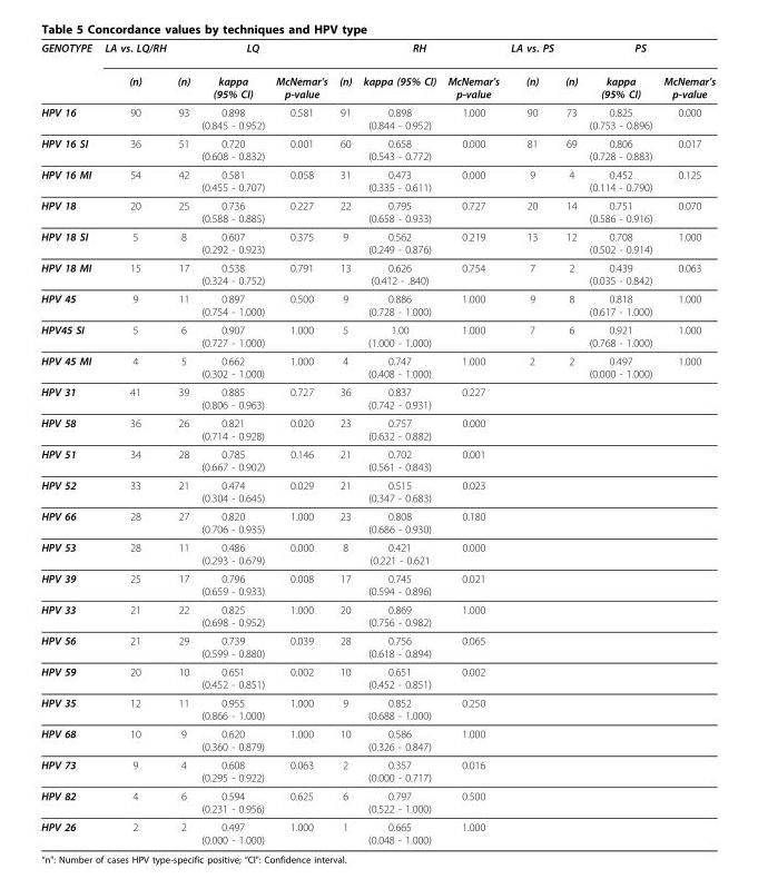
<table><thead><tr><td rowspan="2">GENOTYPE</td><td rowspan="2">LA vs. LQ/RH (n)</td><td colspan="3">LQ</td><td colspan="3">RH</td><td rowspan="2">LA vs. PS (n)</td><td colspan="3">PS</td></tr><tr><td>(n)</td><td>kappa (95% CI)</td><td>McNemar’s p-value</td><td>(n)</td><td>kappa (95% CI)</td><td>McNemar’s p-value</td><td>(n)</td><td>kappa (95% CI)</td><td>McNemar’s p-value</td></tr></thead><tbody><tr><td>HPV 16</td><td>90</td><td>93</td><td>0.898 (0.845 - 0.952)</td><td>0.581</td><td>91</td><td>0.898 (0.844 - 0.952)</td><td>1.000</td><td>90</td><td>73</td><td>0.825 (0.753 - 0.896)</td><td>0.000</td></tr><tr><td>HPV 16 SI</td><td>36</td><td>51</td><td>0.720 (0.608 - 0.832)</td><td>0.001</td><td>60</td><td>0.658 (0.543 - 0.772)</td><td>0.000</td><td>81</td><td>69</td><td>0.806 (0.728 - 0.883)</td><td>0.017</td></tr><tr><td>HPV 16 MI</td><td>54</td><td>42</td><td>0.581 (0.455 - 0.707)</td><td>0.058</td><td>31</td><td>0.473 (0.335 - 0.611)</td><td>0.000</td><td>9</td><td>4</td><td>0.452 (0.114 - 0.790)</td><td>0.125</td></tr><tr><td>HPV 18</td><td>20</td><td>25</td><td>0.736 (0.588 - 0.885)</td><td>0.227</td><td>22</td><td>0.795 (0.658 - 0.933)</td><td>0.727</td><td>20</td><td>14</td><td>0.751 (0.586 - 0.916)</td><td>0.070</td></tr><tr><td>HPV 18 SI</td><td>5</td><td>8</td><td>0.607 (0.292 - 0.923)</td><td>0.375</td><td>9</td><td>0.562 (0.249 - 0.876)</td><td>0.219</td><td>13</td><td>12</td><td>0.708 (0.502 - 0.914)</td><td>1.000</td></tr><tr><td>HPV 18 MI</td><td>15</td><td>17</td><td>0.538 (0.324 - 0.752)</td><td>0.791</td><td>13</td><td>0.626 (0.412 - .840)</td><td>0.754</td><td>7</td><td>2</td><td>0.439 (0.035 - 0.842)</td><td>0.063</td></tr><tr><td>HPV 45</td><td>9</td><td>11</td><td>0.897 (0.754 - 1.000)</td><td>0.500</td><td>9</td><td>0.886 (0.728 - 1.000)</td><td>1.000</td><td>9</td><td>8</td><td>0.818 (0.617 - 1.000)</td><td>1.000</td></tr><tr><td>HPV45 SI</td><td>5</td><td>6</td><td>0.907 (0.727 - 1.000)</td><td>1.000</td><td>5</td><td>1.00 (1.000 - 1.000)</td><td>1.000</td><td>7</td><td>6</td><td>0.921 (0.768 - 1.000)</td><td>1.000</td></tr><tr><td>HPV 45 MI</td><td>4</td><td>5</td><td>0.662 (0.302 - 1.000)</td><td>1.000</td><td>4</td><td>0.747 (0.408 - 1.000)</td><td>1.000</td><td>2</td><td>2</td><td>0.497 (0.000 - 1.000)</td><td>1.000</td></tr><tr><td>HPV 31</td><td>41</td><td>39</td><td>0.885 (0.806 - 0.963)</td><td>0.727</td><td>36</td><td>0.837 (0.742 - 0.931)</td><td>0.227</td><td></td><td></td><td></td><td></td></tr><tr><td>HPV 58</td><td>36</td><td>26</td><td>0.821 (0.714 - 0.928)</td><td>0.020</td><td>23</td><td>0.757 (0.632 - 0.882)</td><td>0.000</td><td></td><td></td><td></td><td></td></tr><tr><td>HPV 51</td><td>34</td><td>28</td><td>0.785 (0.667 - 0.902)</td><td>0.146</td><td>21</td><td>0.702 (0.561 - 0.843)</td><td>0.001</td><td></td><td></td><td></td><td></td></tr><tr><td>HPV 52</td><td>33</td><td>21</td><td>0.474 (0.304 - 0.645)</td><td>0.029</td><td>21</td><td>0.515 (0.347 - 0.683)</td><td>0.023</td><td></td><td></td><td></td><td></td></tr><tr><td>HPV 66</td><td>28</td><td>27</td><td>0.820 (0.706 - 0.935)</td><td>1.000</td><td>23</td><td>0.808 (0.686 - 0.930)</td><td>0.180</td><td></td><td></td><td></td><td></td></tr><tr><td>HPV 53</td><td>28</td><td>11</td><td>0.486 (0.293 - 0.679)</td><td>0.000</td><td>8</td><td>0.421 (0.221 - 0.621</td><td>0.000</td><td></td><td></td><td></td><td></td></tr><tr><td>HPV 39</td><td>25</td><td>17</td><td>0.796 (0.659 - 0.933)</td><td>0.008</td><td>17</td><td>0.745 (0.594 - 0.896)</td><td>0.021</td><td></td><td></td><td></td><td></td></tr><tr><td>HPV 33</td><td>21</td><td>22</td><td>0.825 (0.698 - 0.952)</td><td>1.000</td><td>20</td><td>0.869 (0.756 - 0.982)</td><td>1.000</td><td></td><td></td><td></td><td></td></tr><tr><td>HPV 56</td><td>21</td><td>29</td><td>0.739 (0.599 - 0.880)</td><td>0.039</td><td>28</td><td>0.756 (0.618 - 0.894)</td><td>0.065</td><td></td><td></td><td></td><td></td></tr><tr><td>HPV 59</td><td>20</td><td>10</td><td>0.651 (0.452 - 0.851)</td><td>0.002</td><td>10</td><td>0.651 (0.452 - 0.851)</td><td>0.002</td><td></td><td></td><td></td><td></td></tr><tr><td>HPV 35</td><td>12</td><td>11</td><td>0.955 (0.866 - 1.000)</td><td>1.000</td><td>9</td><td>0.852 (0.688 - 1.000)</td><td>0.250</td><td></td><td></td><td></td><td></td></tr><tr><td>HPV 68</td><td>10</td><td>9</td><td>0.620 (0.360 - 0.879)</td><td>1.000</td><td>10</td><td>0.586 (0.326 - 0.847)</td><td>1.000</td><td></td><td></td><td></td><td></td></tr><tr><td>HPV 73</td><td>9</td><td>4</td><td>0.608 (0.295 - 0.922)</td><td>0.063</td><td>2</td><td>0.357 (0.000 - 0.717)</td><td>0.016</td><td></td><td></td><td></td><td></td></tr><tr><td>HPV 82</td><td>4</td><td>6</td><td>0.594 (0.231 - 0.956)</td><td>0.625</td><td>6</td><td>0.797 (0.522 - 1.000)</td><td>0.500</td><td></td><td></td><td></td><td></td></tr><tr><td>HPV 26</td><td>2</td><td>2</td><td>0.497 (0.000 - 1.000)</td><td>1.000</td><td>1</td><td>0.665 (0.048 - 1.000)</td><td>1.000</td><td></td><td></td><td></td><td></td></tr></tbody></table>